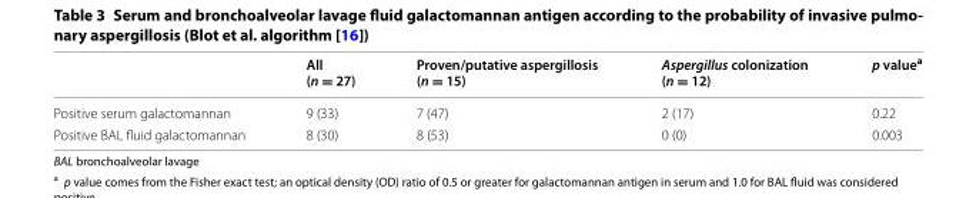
<table><thead><tr><td></td><td>All (n = 27)</td><td>Proven/putative aspergillosis (n = 15)</td><td>Aspergillus colonization (n = 12)</td><td>p value<sup>a</sup></td></tr></thead><tbody><tr><td>Positive serum galactomannan</td><td>9 (33)</td><td>7 (47)</td><td>2 (17)</td><td>0.22</td></tr><tr><td>Positive BAL fluid galactomannan</td><td>8 (30)</td><td>8 (53)</td><td>0 (0)</td><td>0.003</td></tr></tbody></table>